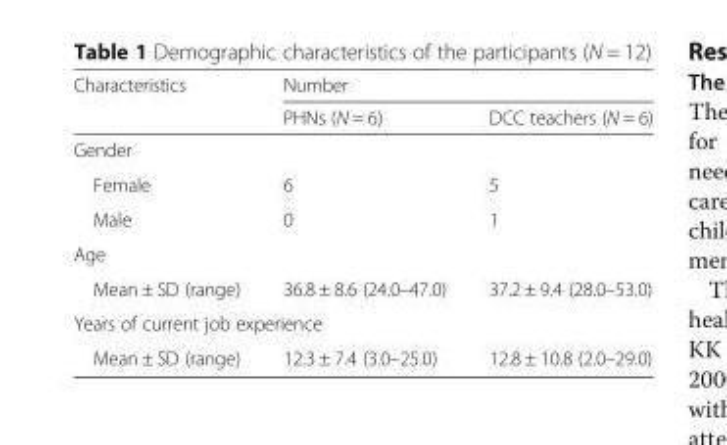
<table><thead><tr><td rowspan="2">Characteristics</td><td colspan="2">Number</td></tr><tr><td>PHNs (N = 6)</td><td>DCC teachers (N = 6)</td></tr></thead><tbody><tr><td colspan="3">Gender</td></tr><tr><td>Female</td><td>6</td><td>5</td></tr><tr><td>Male</td><td>0</td><td>1</td></tr><tr><td colspan="3">Age</td></tr><tr><td>Mean ± SD (range)</td><td>36.8 ± 8.6 (24.0–47.0)</td><td>37.2 ± 9.4 (28.0–53.0)</td></tr><tr><td colspan="3">Years of current job experience</td></tr><tr><td>Mean ± SD (range)</td><td>12.3 ± 7.4 (3.0–25.0)</td><td>12.8 ± 10.8 (2.0–29.0)</td></tr></tbody></table>